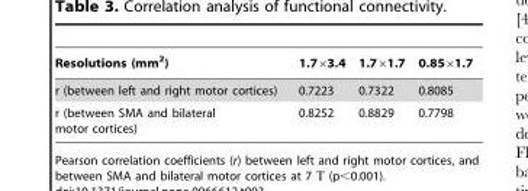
<table><thead><tr><td>Resolutions (mm<sup>2</sup>)</td><td>1.7×3.4</td><td>1.7×1.7</td><td>0.85×1.7</td></tr></thead><tbody><tr><td>r (between left and right motor cortices)</td><td>0.7223</td><td>0.7322</td><td>0.8085</td></tr><tr><td>r (between SMA and bilateral motor cortices)</td><td>0.8252</td><td>0.8829</td><td>0.7798</td></tr></tbody></table>